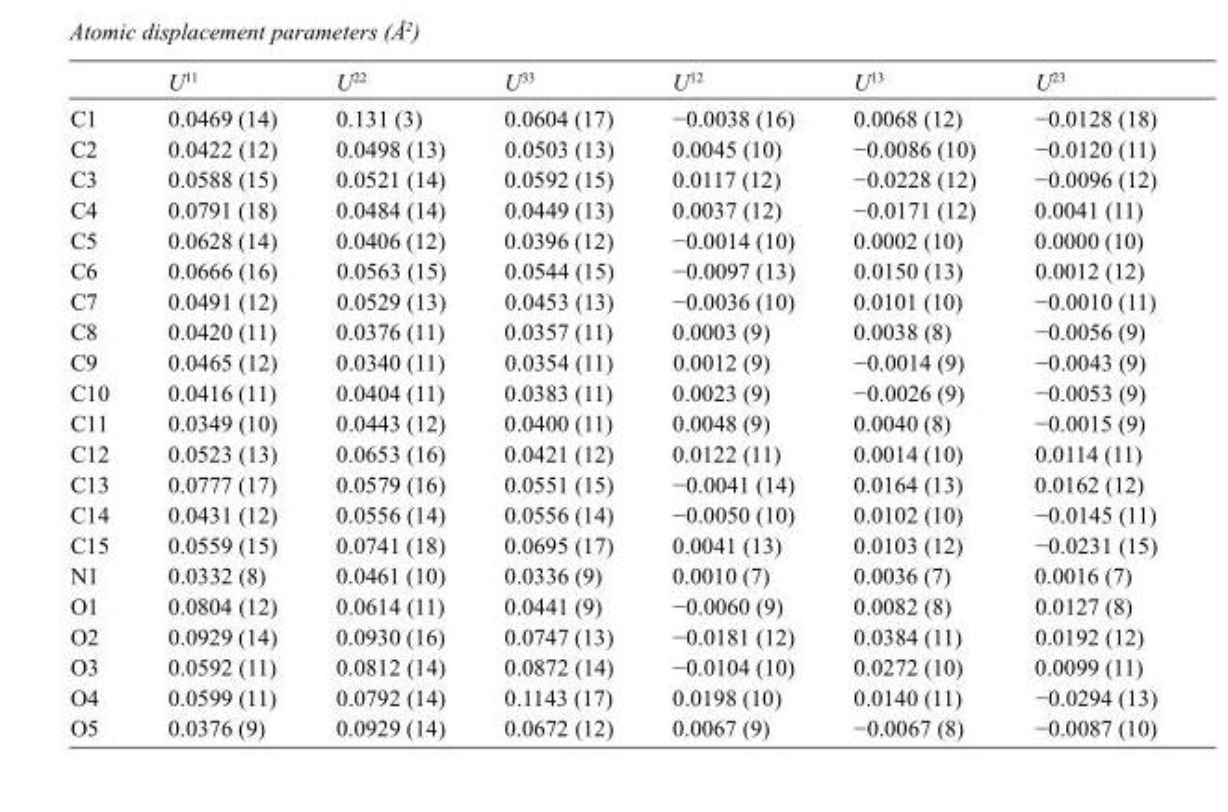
<table><thead><tr><td></td><td>U<sup>11</sup></td><td>U<sup>22</sup></td><td>U<sup>33</sup></td><td>U<sup>12</sup></td><td>U<sup>13</sup></td><td>U<sup>23</sup></td></tr></thead><tbody><tr><td>C1</td><td>0.0469 (14)</td><td>0.131 (3)</td><td>0.0604 (17)</td><td>−0.0038 (16)</td><td>0.0068 (12)</td><td>−0.0128 (18)</td></tr><tr><td>C2</td><td>0.0422 (12)</td><td>0.0498 (13)</td><td>0.0503 (13)</td><td>0.0045 (10)</td><td>−0.0086 (10)</td><td>−0.0120 (11)</td></tr><tr><td>C3</td><td>0.0588 (15)</td><td>0.0521 (14)</td><td>0.0592 (15)</td><td>0.0117 (12)</td><td>−0.0228 (12)</td><td>−0.0096 (12)</td></tr><tr><td>C4</td><td>0.0791 (18)</td><td>0.0484 (14)</td><td>0.0449 (13)</td><td>0.0037 (12)</td><td>−0.0171 (12)</td><td>0.0041 (11)</td></tr><tr><td>C5</td><td>0.0628 (14)</td><td>0.0406 (12)</td><td>0.0396 (12)</td><td>−0.0014 (10)</td><td>0.0002 (10)</td><td>0.0000 (10)</td></tr><tr><td>C6</td><td>0.0666 (16)</td><td>0.0563 (15)</td><td>0.0544 (15)</td><td>−0.0097 (13)</td><td>0.0150 (13)</td><td>0.0012 (12)</td></tr><tr><td>C7</td><td>0.0491 (12)</td><td>0.0529 (13)</td><td>0.0453 (13)</td><td>−0.0036 (10)</td><td>0.0101 (10)</td><td>−0.0010 (11)</td></tr><tr><td>C8</td><td>0.0420 (11)</td><td>0.0376 (11)</td><td>0.0357 (11)</td><td>0.0003 (9)</td><td>0.0038 (8)</td><td>−0.0056 (9)</td></tr><tr><td>C9</td><td>0.0465 (12)</td><td>0.0340 (11)</td><td>0.0354 (11)</td><td>0.0012 (9)</td><td>−0.0014 (9)</td><td>−0.0043 (9)</td></tr><tr><td>C10</td><td>0.0416 (11)</td><td>0.0404 (11)</td><td>0.0383 (11)</td><td>0.0023 (9)</td><td>−0.0026 (9)</td><td>−0.0053 (9)</td></tr><tr><td>C11</td><td>0.0349 (10)</td><td>0.0443 (12)</td><td>0.0400 (11)</td><td>0.0048 (9)</td><td>0.0040 (8)</td><td>−0.0015 (9)</td></tr><tr><td>C12</td><td>0.0523 (13)</td><td>0.0653 (16)</td><td>0.0421 (12)</td><td>0.0122 (11)</td><td>0.0014 (10)</td><td>0.0114 (11)</td></tr><tr><td>C13</td><td>0.0777 (17)</td><td>0.0579 (16)</td><td>0.0551 (15)</td><td>−0.0041 (14)</td><td>0.0164 (13)</td><td>0.0162 (12)</td></tr><tr><td>C14</td><td>0.0431 (12)</td><td>0.0556 (14)</td><td>0.0556 (14)</td><td>−0.0050 (10)</td><td>0.0102 (10)</td><td>−0.0145 (11)</td></tr><tr><td>C15</td><td>0.0559 (15)</td><td>0.0741 (18)</td><td>0.0695 (17)</td><td>0.0041 (13)</td><td>0.0103 (12)</td><td>−0.0231 (15)</td></tr><tr><td>N1</td><td>0.0332 (8)</td><td>0.0461 (10)</td><td>0.0336 (9)</td><td>0.0010 (7)</td><td>0.0036 (7)</td><td>0.0016 (7)</td></tr><tr><td>O1</td><td>0.0804 (12)</td><td>0.0614 (11)</td><td>0.0441 (9)</td><td>−0.0060 (9)</td><td>0.0082 (8)</td><td>0.0127 (8)</td></tr><tr><td>O2</td><td>0.0929 (14)</td><td>0.0930 (16)</td><td>0.0747 (13)</td><td>−0.0181 (12)</td><td>0.0384 (11)</td><td>0.0192 (12)</td></tr><tr><td>O3</td><td>0.0592 (11)</td><td>0.0812 (14)</td><td>0.0872 (14)</td><td>−0.0104 (10)</td><td>0.0272 (10)</td><td>0.0099 (11)</td></tr><tr><td>O4</td><td>0.0599 (11)</td><td>0.0792 (14)</td><td>0.1143 (17)</td><td>0.0198 (10)</td><td>0.0140 (11)</td><td>−0.0294 (13)</td></tr><tr><td>O5</td><td>0.0376 (9)</td><td>0.0929 (14)</td><td>0.0672 (12)</td><td>0.0067 (9)</td><td>−0.0067 (8)</td><td>−0.0087 (10)</td></tr></tbody></table>